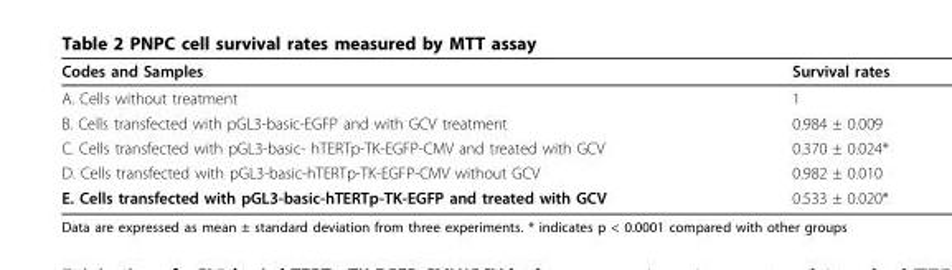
<table><thead><tr><td>Codes and Samples</td><td>Survival rates</td></tr></thead><tbody><tr><td>A. Cells without treatment</td><td>1</td></tr><tr><td>B. Cells transfected with pGL3-basic-EGFP and with GCV treatment</td><td>0.984 ± 0.009</td></tr><tr><td>C. Cells transfected with pGL3-basic- hTERTp-TK-EGFP-CMV and treated with GCV</td><td>0.370 ± 0.024*</td></tr><tr><td>D. Cells transfected with pGL3-basic-hTERTp-TK-EGFP-CMV without GCV</td><td>0.982 ± 0.010</td></tr><tr><td>E. Cells transfected with pGL3-basic-hTERTp-TK-EGFP and treated with GCV</td><td>0.533 ± 0.020*</td></tr></tbody></table>